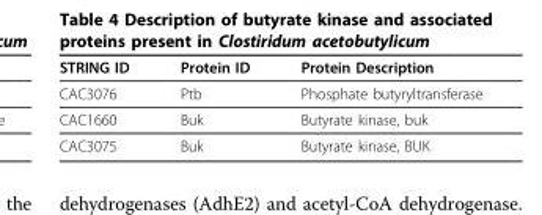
<table><thead><tr><td>STRING ID</td><td>Protein ID</td><td>Protein Description</td></tr></thead><tbody><tr><td>CAC3076</td><td>Ptb</td><td>Phosphate butyryltransferase</td></tr><tr><td>CAC1660</td><td>Buk</td><td>Butyrate kinase, buk</td></tr><tr><td>CAC3075</td><td>Buk</td><td>Butyrate kinase, BUK</td></tr></tbody></table>